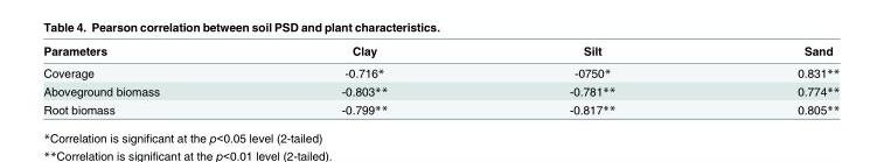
<table><thead><tr><td>Parameters</td><td>Clay</td><td>Silt</td><td>Sand</td></tr></thead><tbody><tr><td>Coverage</td><td>-0.716*</td><td>-0750*</td><td>0.831**</td></tr><tr><td>Aboveground biomass</td><td>-0.803**</td><td>-0.781**</td><td>0.774**</td></tr><tr><td>Root biomass</td><td>-0.799**</td><td>-0.817**</td><td>0.805**</td></tr></tbody></table>